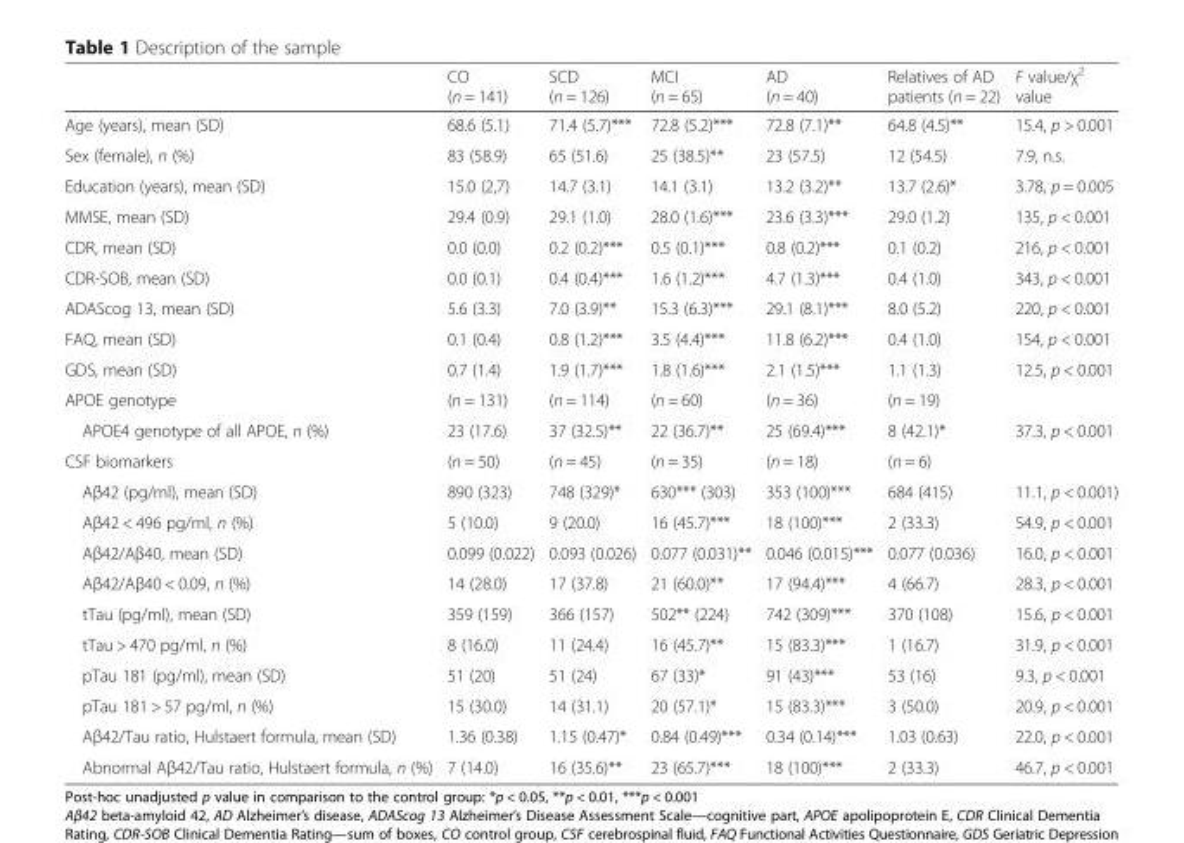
<table><thead><tr><td></td><td>CO (n = 141)</td><td>SCD (n = 126)</td><td>MCI (n = 65)</td><td>AD (n = 40)</td><td>Relatives of AD patients (n = 22)</td><td>F value/χ<sup>2</sup> value</td></tr></thead><tbody><tr><td>Age (years), mean (SD)</td><td>68.6 (5.1)</td><td>71.4 (5.7)***</td><td>72.8 (5.2)***</td><td>72.8 (7.1)**</td><td>64.8 (4.5)**</td><td>15.4, p &gt; 0.001</td></tr><tr><td>Sex (female), n (%)</td><td>83 (58.9)</td><td>65 (51.6)</td><td>25 (38.5)**</td><td>23 (57.5)</td><td>12 (54.5)</td><td>7.9, n.s.</td></tr><tr><td>Education (years), mean (SD)</td><td>15.0 (2,7)</td><td>14.7 (3.1)</td><td>14.1 (3.1)</td><td>13.2 (3.2)**</td><td>13.7 (2.6)*</td><td>3.78, p = 0.005</td></tr><tr><td>MMSE, mean (SD)</td><td>29.4 (0.9)</td><td>29.1 (1.0)</td><td>28.0 (1.6)***</td><td>23.6 (3.3)***</td><td>29.0 (1.2)</td><td>135, p &lt; 0.001</td></tr><tr><td>CDR, mean (SD)</td><td>0.0 (0.0)</td><td>0.2 (0.2)***</td><td>0.5 (0.1)***</td><td>0.8 (0.2)***</td><td>0.1 (0.2)</td><td>216, p &lt; 0.001</td></tr><tr><td>CDR-SOB, mean (SD)</td><td>0.0 (0.1)</td><td>0.4 (0.4)***</td><td>1.6 (1.2)***</td><td>4.7 (1.3)***</td><td>0.4 (1.0)</td><td>343, p &lt; 0.001</td></tr><tr><td>ADAScog 13, mean (SD)</td><td>5.6 (3.3)</td><td>7.0 (3.9)**</td><td>15.3 (6.3)***</td><td>29.1 (8.1)***</td><td>8.0 (5.2)</td><td>220, p &lt; 0.001</td></tr><tr><td>FAQ, mean (SD)</td><td>0.1 (0.4)</td><td>0.8 (1.2)***</td><td>3.5 (4.4)***</td><td>11.8 (6.2)***</td><td>0.4 (1.0)</td><td>154, p &lt; 0.001</td></tr><tr><td>GDS, mean (SD)</td><td>0.7 (1.4)</td><td>1.9 (1.7)***</td><td>1.8 (1.6)***</td><td>2.1 (1.5)***</td><td>1.1 (1.3)</td><td>12.5, p &lt; 0.001</td></tr><tr><td>APOE genotype</td><td>(n = 131)</td><td>(n = 114)</td><td>(n = 60)</td><td>(n = 36)</td><td>(n = 19)</td><td></td></tr><tr><td>APOE4 genotype of all APOE, n (%)</td><td>23 (17.6)</td><td>37 (32.5)**</td><td>22 (36.7)**</td><td>25 (69.4)***</td><td>8 (42.1)*</td><td>37.3, p &lt; 0.001</td></tr><tr><td>CSF biomarkers</td><td>(n = 50)</td><td>(n = 45)</td><td>(n = 35)</td><td>(n = 18)</td><td>(n = 6)</td><td></td></tr><tr><td>Aβ42 (pg/ml), mean (SD)</td><td>890 (323)</td><td>748 (329)*</td><td>630*** (303)</td><td>353 (100)***</td><td>684 (415)</td><td>11.1, p &lt; 0.001)</td></tr><tr><td>Aβ42 &lt; 496 pg/ml, n (%)</td><td>5 (10.0)</td><td>9 (20.0)</td><td>16 (45.7)***</td><td>18 (100)***</td><td>2 (33.3)</td><td>54.9, p &lt; 0.001</td></tr><tr><td>Aβ42/Aβ40, mean (SD)</td><td>0.099 (0.022)</td><td>0.093 (0.026)</td><td>0.077 (0.031)**</td><td>0.046 (0.015)***</td><td>0.077 (0.036)</td><td>16.0, p &lt; 0.001</td></tr><tr><td>Aβ42/Aβ40 &lt; 0.09, n (%)</td><td>14 (28.0)</td><td>17 (37.8)</td><td>21 (60.0)**</td><td>17 (94.4)***</td><td>4 (66.7)</td><td>28.3, p &lt; 0.001</td></tr><tr><td>tTau (pg/ml), mean (SD)</td><td>359 (159)</td><td>366 (157)</td><td>502** (224)</td><td>742 (309)***</td><td>370 (108)</td><td>15.6, p &lt; 0.001</td></tr><tr><td>tTau &gt; 470 pg/ml, n (%)</td><td>8 (16.0)</td><td>11 (24.4)</td><td>16 (45.7)**</td><td>15 (83.3)***</td><td>1 (16.7)</td><td>31.9, p &lt; 0.001</td></tr><tr><td>pTau 181 (pg/ml), mean (SD)</td><td>51 (20)</td><td>51 (24)</td><td>67 (33)*</td><td>91 (43)***</td><td>53 (16)</td><td>9.3, p &lt; 0.001</td></tr><tr><td>pTau 181 &gt; 57 pg/ml, n (%)</td><td>15 (30.0)</td><td>14 (31.1)</td><td>20 (57.1)*</td><td>15 (83.3)***</td><td>3 (50.0)</td><td>20.9, p &lt; 0.001</td></tr><tr><td>Aβ42/Tau ratio, Hulstaert formula, mean (SD)</td><td>1.36 (0.38)</td><td>1.15 (0.47)*</td><td>0.84 (0.49)***</td><td>0.34 (0.14)***</td><td>1.03 (0.63)</td><td>22.0, p &lt; 0.001</td></tr><tr><td>Abnormal Aβ42/Tau ratio, Hulstaert formula, n (%)</td><td>7 (14.0)</td><td>16 (35.6)**</td><td>23 (65.7)***</td><td>18 (100)***</td><td>2 (33.3)</td><td>46.7, p &lt; 0.001</td></tr></tbody></table>